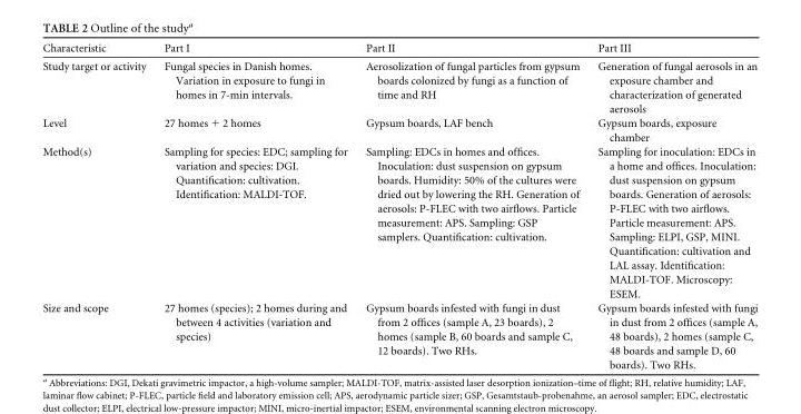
<table><thead><tr><td>Characteristic</td><td>Part I</td><td>Part II</td><td>Part III</td></tr></thead><tbody><tr><td>Study target or activity</td><td>Fungal species in Danish homes. Variation in exposure to fungi in homes in 7-min intervals.</td><td>Aerosolization of fungal particles from gypsum boards colonized by fungi as a function of time and RH</td><td>Generation of fungal aerosols in an exposure chamber and characterization of generated aerosols</td></tr><tr><td>Level</td><td>27 homes + 2 homes</td><td>Gypsum boards, LAF bench</td><td>Gypsum boards, exposure chamber</td></tr><tr><td>Method(s)</td><td>Sampling for species: EDC; sampling for variation and species: DGI. Quantification: cultivation. Identification: MALDI-TOF.</td><td>Sampling: EDCs in homes and offices. Inoculation: dust suspension on gypsum boards. Humidity: 50% of the cultures were dried out by lowering the RH. Generation of aerosols: P-FLEC with two airflows. Particle measurement: APS. Sampling: GSP samplers. Quantification: cultivation.</td><td>Sampling for inoculation: EDCs in a home and offices. Inoculation: dust suspension on gypsum boards. Generation of aerosols: P-FLEC with two airflows. Particle measurement: APS. Sampling: ELPI, GSP, MINI. Quantification: cultivation and LAL assay. Identification: MALDI-TOF. Microscopy: ESEM.</td></tr><tr><td>Size and scope</td><td>27 homes (species); 2 homes during and between 4 activities (variation and species)</td><td>Gypsum boards infested with fungi in dust from 2 offices (sample A, 23 boards), 2 homes (sample B, 60 boards and sample C, 12 boards). Two RHs.</td><td>Gypsum boards infested with fungi in dust from 2 offices (sample A, 48 boards), 2 homes (sample C, 48 boards and sample D, 60 boards). Two RHs.</td></tr></tbody></table>